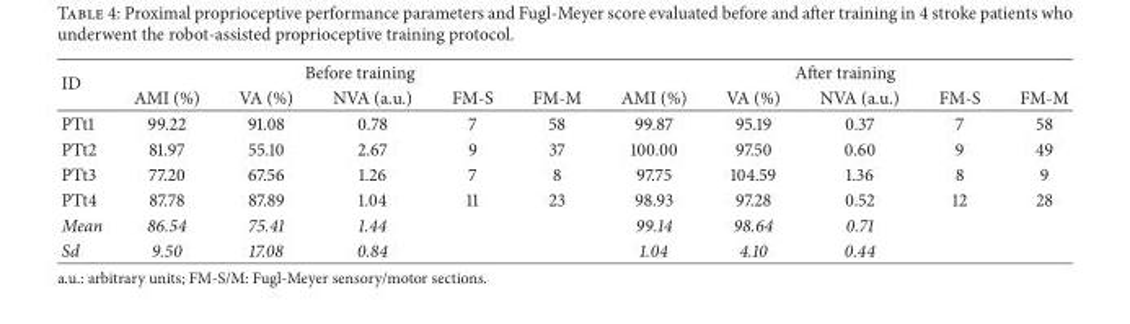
<table><thead><tr><td rowspan="2">ID</td><td colspan="5">Before training</td><td colspan="5">After training</td></tr><tr><td>AMI (%)</td><td>VA (%)</td><td>NVA (a.u.)</td><td>FM-S</td><td>FM-M</td><td>AMI (%)</td><td>VA (%)</td><td>NVA (a.u.)</td><td>FM-S</td><td>FM-M</td></tr></thead><tbody><tr><td>PTt1</td><td>99.22</td><td>91.08</td><td>0.78</td><td>7</td><td>58</td><td>99.87</td><td>95.19</td><td>0.37</td><td>7</td><td>58</td></tr><tr><td>PTt2</td><td>81.97</td><td>55.10</td><td>2.67</td><td>9</td><td>37</td><td>100.00</td><td>97.50</td><td>0.60</td><td>9</td><td>49</td></tr><tr><td>PTt3</td><td>77.20</td><td>67.56</td><td>1.26</td><td>7</td><td>8</td><td>97.75</td><td>104.59</td><td>1.36</td><td>8</td><td>9</td></tr><tr><td>PTt4</td><td>87.78</td><td>87.89</td><td>1.04</td><td>11</td><td>23</td><td>98.93</td><td>97.28</td><td>0.52</td><td>12</td><td>28</td></tr><tr><td>Mean</td><td>86.54</td><td>75.41</td><td>1.44</td><td></td><td></td><td>99.14</td><td>98.64</td><td>0.71</td><td></td><td></td></tr><tr><td>Sd</td><td>9.50</td><td>17.08</td><td>0.84</td><td></td><td></td><td>1.04</td><td>4.10</td><td>0.44</td><td></td><td></td></tr></tbody></table>